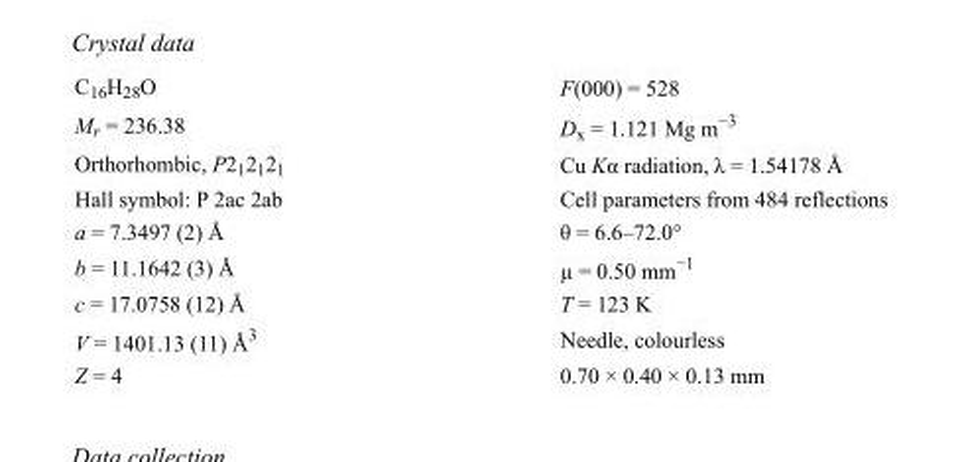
<table><tbody><tr><td>C<sub>16</sub>H<sub>28</sub>O</td><td>F(000) = 528</td></tr><tr><td>M<sub>r</sub> = 236.38</td><td>D<sub>x</sub> = 1.121 Mg m<sup>−3</sup></td></tr><tr><td>Orthorhombic, P2<sub>1</sub>2<sub>1</sub>2<sub>1</sub></td><td>Cu Kα radiation, λ = 1.54178 Å</td></tr><tr><td>Hall symbol: P 2ac 2ab</td><td>Cell parameters from 484 reflections</td></tr><tr><td>a = 7.3497 (2) Å</td><td>θ = 6.6–72.0°</td></tr><tr><td>b = 11.1642 (3) Å</td><td>µ = 0.50 mm<sup>−1</sup></td></tr><tr><td>c = 17.0758 (12) Å</td><td>T = 123 K</td></tr><tr><td>V = 1401.13 (11) Å<sup>3</sup></td><td>Needle, colourless</td></tr><tr><td>Z = 4</td><td>0.70 × 0.40 × 0.13 mm</td></tr></tbody></table>